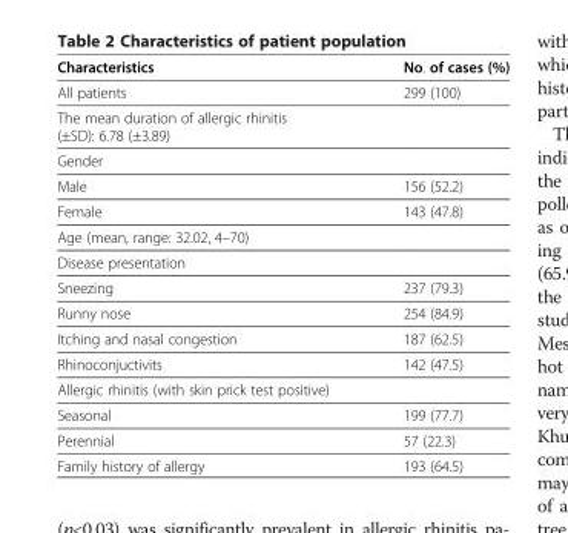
<table><thead><tr><td>Characteristics</td><td>No. of cases (%)</td></tr></thead><tbody><tr><td>All patients</td><td>299 (100)</td></tr><tr><td colspan="2">The mean duration of allergic rhinitis (±SD): 6.78 (±3.89)</td></tr><tr><td colspan="2">Gender</td></tr><tr><td>Male</td><td>156 (52.2)</td></tr><tr><td>Female</td><td>143 (47.8)</td></tr><tr><td colspan="2">Age (mean, range: 32.02, 4–70)</td></tr><tr><td colspan="2">Disease presentation</td></tr><tr><td>Sneezing</td><td>237 (79.3)</td></tr><tr><td>Runny nose</td><td>254 (84.9)</td></tr><tr><td>Itching and nasal congestion</td><td>187 (62.5)</td></tr><tr><td>Rhinoconjuctivits</td><td>142 (47.5)</td></tr><tr><td colspan="2">Allergic rhinitis (with skin prick test positive)</td></tr><tr><td>Seasonal</td><td>199 (77.7)</td></tr><tr><td>Perennial</td><td>57 (22.3)</td></tr><tr><td>Family history of allergy</td><td>193 (64.5)</td></tr></tbody></table>